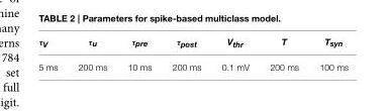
<table><thead><tr><td>τ<sub>V</sub></td><td>τ<sub>u</sub></td><td>τ<sub>pre</sub></td><td>τ<sub>post</sub></td><td>V<sub>thr</sub></td><td>T</td><td>T<sub>syn</sub></td></tr></thead><tbody><tr><td>5 ms</td><td>200 ms</td><td>10 ms</td><td>200 ms</td><td>0.1 mV</td><td>200 ms</td><td>100 ms</td></tr></tbody></table>